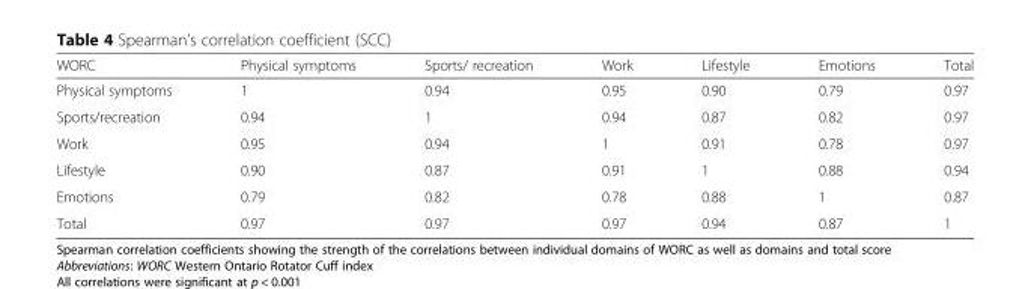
<table><thead><tr><td>WORC</td><td>Physical symptoms</td><td>Sports/ recreation</td><td>Work</td><td>Lifestyle</td><td>Emotions</td><td>Total</td></tr></thead><tbody><tr><td>Physical symptoms</td><td>1</td><td>0.94</td><td>0.95</td><td>0.90</td><td>0.79</td><td>0.97</td></tr><tr><td>Sports/recreation</td><td>0.94</td><td>1</td><td>0.94</td><td>0.87</td><td>0.82</td><td>0.97</td></tr><tr><td>Work</td><td>0.95</td><td>0.94</td><td>1</td><td>0.91</td><td>0.78</td><td>0.97</td></tr><tr><td>Lifestyle</td><td>0.90</td><td>0.87</td><td>0.91</td><td>1</td><td>0.88</td><td>0.94</td></tr><tr><td>Emotions</td><td>0.79</td><td>0.82</td><td>0.78</td><td>0.88</td><td>1</td><td>0.87</td></tr><tr><td>Total</td><td>0.97</td><td>0.97</td><td>0.97</td><td>0.94</td><td>0.87</td><td>1</td></tr></tbody></table>